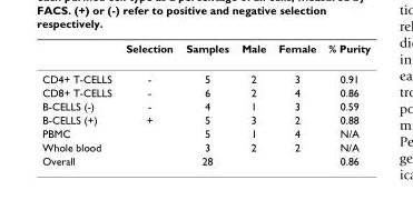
<table><thead><tr><td></td><td>Selection</td><td>Samples</td><td>Male</td><td>Female</td><td>% Purity</td></tr></thead><tbody><tr><td>CD4+ T-CELLS</td><td>-</td><td>5</td><td>2</td><td>3</td><td>0.91</td></tr><tr><td>CD8+ T-CELLS</td><td>-</td><td>6</td><td>2</td><td>4</td><td>0.86</td></tr><tr><td>B-CELLS (-)</td><td>-</td><td>4</td><td>1</td><td>3</td><td>0.59</td></tr><tr><td>B-CELLS (+)</td><td>+</td><td>5</td><td>3</td><td>2</td><td>0.88</td></tr><tr><td>PBMC</td><td></td><td>5</td><td>1</td><td>4</td><td>N/A</td></tr><tr><td>Whole blood</td><td></td><td>3</td><td>2</td><td>2</td><td>N/A</td></tr><tr><td>Overall</td><td></td><td>28</td><td></td><td></td><td>0.86</td></tr></tbody></table>